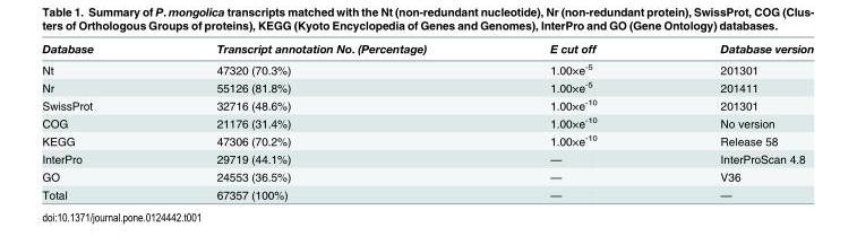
<table><thead><tr><td>Database</td><td>Transcript annotation No. (Percentage)</td><td>E cut off</td><td>Database version</td></tr></thead><tbody><tr><td>Nt</td><td>47320 (70.3%)</td><td>1.00×e<sup>-5</sup></td><td>201301</td></tr><tr><td>Nr</td><td>55126 (81.8%)</td><td>1.00×e<sup>-5</sup></td><td>201411</td></tr><tr><td>SwissProt</td><td>32716 (48.6%)</td><td>1.00×e<sup>-10</sup></td><td>201301</td></tr><tr><td>COG</td><td>21176 (31.4%)</td><td>1.00×e<sup>-10</sup></td><td>No version</td></tr><tr><td>KEGG</td><td>47306 (70.2%)</td><td>1.00×e<sup>-10</sup></td><td>Release 58</td></tr><tr><td>InterPro</td><td>29719 (44.1%)</td><td>—</td><td>InterProScan 4.8</td></tr><tr><td>GO</td><td>24553 (36.5%)</td><td>—</td><td>V36</td></tr><tr><td>Total</td><td>67357 (100%)</td><td>—</td><td>—</td></tr></tbody></table>